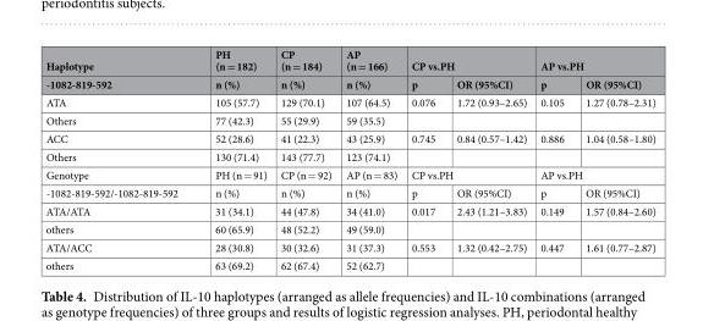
<table><thead><tr><td rowspan="2">Haplotype -1082-819-592</td><td rowspan="2">PH (n = 182) n (%)</td><td rowspan="2">CP (n = 184) n (%)</td><td rowspan="2">AP (n = 166) n (%)</td><td colspan="2">CP vs.PH</td><td colspan="2">AP vs.PH</td></tr><tr><td>p</td><td>OR (95%CI)</td><td>p</td><td>OR (95%CI)</td></tr></thead><tbody><tr><td>ATA</td><td>105 (57.7)</td><td>129 (70.1)</td><td>107 (64.5)</td><td>0.076</td><td>1.72 (0.93–2.65)</td><td>0.105</td><td>1.27 (0.78–2.31)</td></tr><tr><td>Others</td><td>77 (42.3)</td><td>55 (29.9)</td><td>59 (35.5)</td><td></td><td></td><td></td><td></td></tr><tr><td>ACC</td><td>52 (28.6)</td><td>41 (22.3)</td><td>43 (25.9)</td><td>0.745</td><td>0.84 (0.57–1.42)</td><td>0.886</td><td>1.04 (0.58–1.80)</td></tr><tr><td>Others</td><td>130 (71.4)</td><td>143 (77.7)</td><td>123 (74.1)</td><td></td><td></td><td></td><td></td></tr><tr><td>Genotype</td><td>PH (n = 91)</td><td>CP (n = 92)</td><td>AP (n = 83)</td><td colspan="2">CP vs.PH</td><td colspan="2">AP vs.PH</td></tr><tr><td>-1082-819-592/-1082-819-592</td><td>n (%)</td><td>n (%)</td><td>n (%)</td><td>p</td><td>OR (95%CI)</td><td>p</td><td>OR (95%CI)</td></tr><tr><td>ATA/ATA</td><td>31 (34.1)</td><td>44 (47.8)</td><td>34 (41.0)</td><td>0.017</td><td>2.43 (1.21–3.83)</td><td>0.149</td><td>1.57 (0.84–2.60)</td></tr><tr><td>others</td><td>60 (65.9)</td><td>48 (52.2)</td><td>49 (59.0)</td><td></td><td></td><td></td><td></td></tr><tr><td>ATA/ACC</td><td>28 (30.8)</td><td>30 (32.6)</td><td>31 (37.3)</td><td>0.553</td><td>1.32 (0.42–2.75)</td><td>0.447</td><td>1.61 (0.77–2.87)</td></tr><tr><td>others</td><td>63 (69.2)</td><td>62 (67.4)</td><td>52 (62.7)</td><td></td><td></td><td></td><td></td></tr></tbody></table>